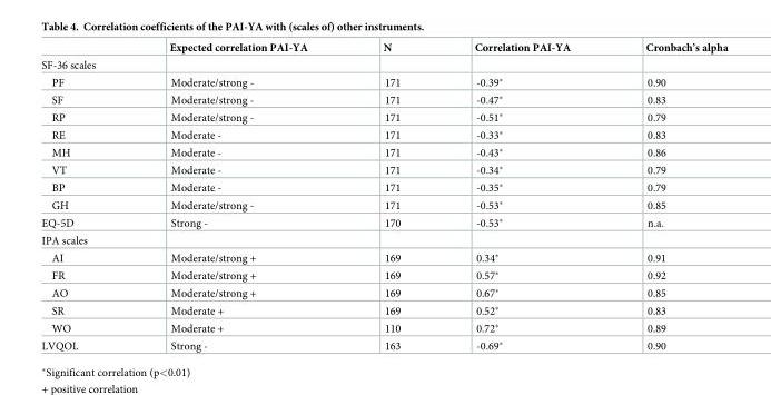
<table><thead><tr><td></td><td>Expected correlation PAI-YA</td><td>N</td><td>Correlation PAI-YA</td><td>Cronbach’s alpha</td></tr></thead><tbody><tr><td colspan="5">SF-36 scales</td></tr><tr><td>PF</td><td>Moderate/strong -</td><td>171</td><td>-0.39*</td><td>0.90</td></tr><tr><td>SF</td><td>Moderate/strong -</td><td>171</td><td>-0.47*</td><td>0.83</td></tr><tr><td>RP</td><td>Moderate/strong -</td><td>171</td><td>-0.51*</td><td>0.79</td></tr><tr><td>RE</td><td>Moderate -</td><td>171</td><td>-0.33*</td><td>0.83</td></tr><tr><td>MH</td><td>Moderate -</td><td>171</td><td>-0.43*</td><td>0.86</td></tr><tr><td>VT</td><td>Moderate -</td><td>171</td><td>-0.34*</td><td>0.79</td></tr><tr><td>BP</td><td>Moderate -</td><td>171</td><td>-0.35*</td><td>0.79</td></tr><tr><td>GH</td><td>Moderate/strong -</td><td>171</td><td>-0.53*</td><td>0.85</td></tr><tr><td>EQ-5D</td><td>Strong -</td><td>170</td><td>-0.53*</td><td>n.a.</td></tr><tr><td colspan="5">IPA scales</td></tr><tr><td>AI</td><td>Moderate/strong +</td><td>169</td><td>0.34*</td><td>0.91</td></tr><tr><td>FR</td><td>Moderate/strong +</td><td>169</td><td>0.57*</td><td>0.92</td></tr><tr><td>AO</td><td>Moderate/strong +</td><td>169</td><td>0.67*</td><td>0.85</td></tr><tr><td>SR</td><td>Moderate +</td><td>169</td><td>0.52*</td><td>0.83</td></tr><tr><td>WO</td><td>Moderate +</td><td>110</td><td>0.72*</td><td>0.89</td></tr><tr><td>LVQOL</td><td>Strong -</td><td>163</td><td>-0.69*</td><td>0.90</td></tr></tbody></table>